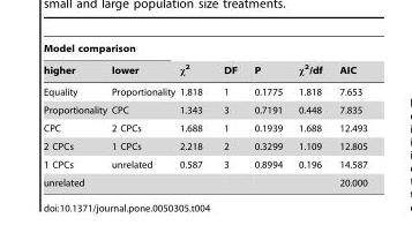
<table><thead><tr><td colspan="2">Model comparison</td><td rowspan="2">χ<sup>2</sup></td><td rowspan="2">DF</td><td rowspan="2">P</td><td rowspan="2">χ<sup>2</sup>/df</td><td rowspan="2">AIC</td></tr><tr><td>higher</td><td>lower</td></tr></thead><tbody><tr><td>Equality</td><td>Proportionality</td><td>1.818</td><td>1</td><td>0.1775</td><td>1.818</td><td>7.653</td></tr><tr><td>Proportionality</td><td>CPC</td><td>1.343</td><td>3</td><td>0.7191</td><td>0.448</td><td>7.835</td></tr><tr><td>CPC</td><td>2 CPCs</td><td>1.688</td><td>1</td><td>0.1939</td><td>1.688</td><td>12.493</td></tr><tr><td>2 CPCs</td><td>1 CPCs</td><td>2.218</td><td>2</td><td>0.3299</td><td>1.109</td><td>12.805</td></tr><tr><td>1 CPCs</td><td>unrelated</td><td>0.587</td><td>3</td><td>0.8994</td><td>0.196</td><td>14.587</td></tr><tr><td>unrelated</td><td></td><td></td><td></td><td></td><td></td><td>20.000</td></tr></tbody></table>